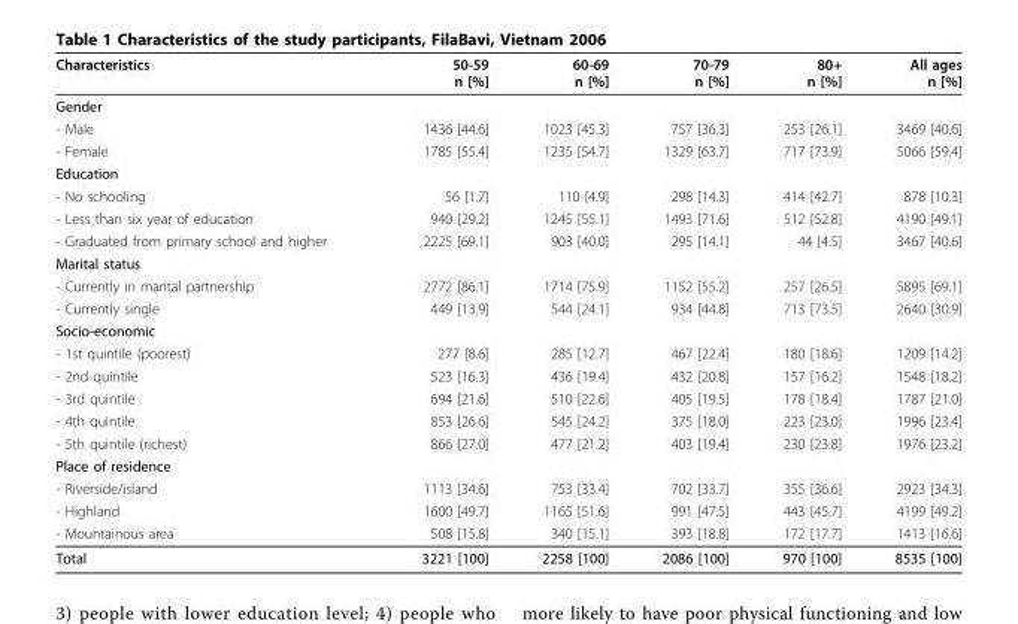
<table><thead><tr><td>Characteristics</td><td>50-59 n [%]</td><td>60-69 n [%]</td><td>70-79 n [%]</td><td>80+ n [%]</td><td>All ages n [%]</td></tr></thead><tbody><tr><td colspan="6">Gender</td></tr><tr><td>- Male</td><td>1436 [44.6]</td><td>1023 [45.3]</td><td>757 [36.3]</td><td>253 [26.1]</td><td>3469 [40.6]</td></tr><tr><td>- Female</td><td>1785 [55.4]</td><td>1235 [54.7]</td><td>1329 [63.7]</td><td>717 [73.9]</td><td>5066 [59.4]</td></tr><tr><td colspan="6">Education</td></tr><tr><td>- No schooling</td><td>56 [1.7]</td><td>110 [4.9]</td><td>298 [14.3]</td><td>414 [42.7]</td><td>878 [10.3]</td></tr><tr><td>- Less than six year of education</td><td>940 [29.2]</td><td>1245 [55.1]</td><td>1493 [71.6]</td><td>512 [52.8]</td><td>4190 [49.1]</td></tr><tr><td>- Graduated from primary school and higher</td><td>2225 [69.1]</td><td>903 [40.0]</td><td>295 [14.1]</td><td>44 [4.5]</td><td>3467 [40.6]</td></tr><tr><td colspan="6">Marital status</td></tr><tr><td>- Currently in marital partnership</td><td>2772 [86.1]</td><td>1714 [75.9]</td><td>1152 [55.2]</td><td>257 [26.5]</td><td>5895 [69.1]</td></tr><tr><td>- Currently single</td><td>449 [13.9]</td><td>544 [24.1]</td><td>934 [44.8]</td><td>713 [73.5]</td><td>2640 [30.9]</td></tr><tr><td colspan="6">Socio-economic</td></tr><tr><td>- 1st quintile (poorest)</td><td>277 [8.6]</td><td>285 [12.7]</td><td>467 [22.4]</td><td>180 [18.6]</td><td>1209 [14.2]</td></tr><tr><td>- 2nd quintile</td><td>523 [16.3]</td><td>436 [19.4]</td><td>432 [20.8]</td><td>157 [16.2]</td><td>1548 [18.2]</td></tr><tr><td>- 3rd quintile</td><td>694 [21.6]</td><td>510 [22.6]</td><td>405 [19.5]</td><td>178 [18.4]</td><td>1787 [21.0]</td></tr><tr><td>- 4th quintile</td><td>853 [26.6]</td><td>545 [24.2]</td><td>375 [18.0]</td><td>223 [23.0]</td><td>1996 [23.4]</td></tr><tr><td>- 5th quintile (richest)</td><td>866 [27.0]</td><td>477 [21.2]</td><td>403 [19.4]</td><td>230 [23.8]</td><td>1976 [23.2]</td></tr><tr><td colspan="6">Place of residence</td></tr><tr><td>- Riverside/island</td><td>1113 [34.6]</td><td>753 [33.4]</td><td>702 [33.7]</td><td>355 [36.6]</td><td>2923 [34.3]</td></tr><tr><td>- Highland</td><td>1600 [49.7]</td><td>1165 [51.6]</td><td>991 [47.5]</td><td>443 [45.7]</td><td>4199 [49.2]</td></tr><tr><td>- Mountainous area</td><td>508 [15.8]</td><td>340 [15.1]</td><td>393 [18.8]</td><td>172 [17.7]</td><td>1413 [16.6]</td></tr><tr><td>Total</td><td>3221 [100]</td><td>2258 [100]</td><td>2086 [100]</td><td>970 [100]</td><td>8535 [100]</td></tr></tbody></table>